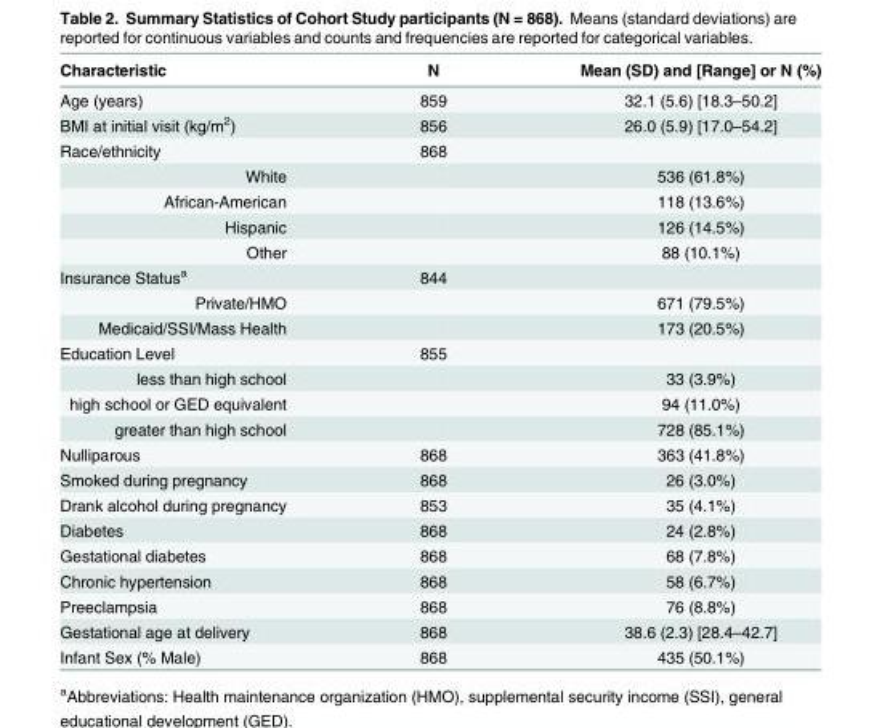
<table><thead><tr><td>Characteristic</td><td>N</td><td>Mean (SD) and [Range] or N (%)</td></tr></thead><tbody><tr><td>Age (years)</td><td>859</td><td>32.1 (5.6) [18.3–50.2]</td></tr><tr><td>BMI at initial visit (kg/m<sup>2</sup>)</td><td>856</td><td>26.0 (5.9) [17.0–54.2]</td></tr><tr><td>Race/ethnicity</td><td>868</td><td></td></tr><tr><td>White</td><td></td><td>536 (61.8%)</td></tr><tr><td>African-American</td><td></td><td>118 (13.6%)</td></tr><tr><td>Hispanic</td><td></td><td>126 (14.5%)</td></tr><tr><td>Other</td><td></td><td>88 (10.1%)</td></tr><tr><td>Insurance Status<sup>a</sup></td><td>844</td><td></td></tr><tr><td>Private/HMO</td><td></td><td>671 (79.5%)</td></tr><tr><td>Medicaid/SSI/Mass Health</td><td></td><td>173 (20.5%)</td></tr><tr><td>Education Level</td><td>855</td><td></td></tr><tr><td>less than high school</td><td></td><td>33 (3.9%)</td></tr><tr><td>high school or GED equivalent</td><td></td><td>94 (11.0%)</td></tr><tr><td>greater than high school</td><td></td><td>728 (85.1%)</td></tr><tr><td>Nulliparous</td><td>868</td><td>363 (41.8%)</td></tr><tr><td>Smoked during pregnancy</td><td>868</td><td>26 (3.0%)</td></tr><tr><td>Drank alcohol during pregnancy</td><td>853</td><td>35 (4.1%)</td></tr><tr><td>Diabetes</td><td>868</td><td>24 (2.8%)</td></tr><tr><td>Gestational diabetes</td><td>868</td><td>68 (7.8%)</td></tr><tr><td>Chronic hypertension</td><td>868</td><td>58 (6.7%)</td></tr><tr><td>Preeclampsia</td><td>868</td><td>76 (8.8%)</td></tr><tr><td>Gestational age at delivery</td><td>868</td><td>38.6 (2.3) [28.4–42.7]</td></tr><tr><td>Infant Sex (% Male)</td><td>868</td><td>435 (50.1%)</td></tr></tbody></table>